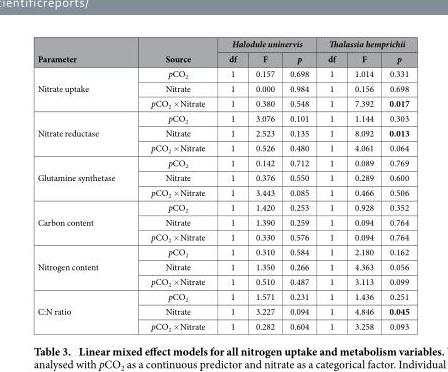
<table><thead><tr><td rowspan="2">Parameter</td><td rowspan="2">Source</td><td colspan="3">Halodule uninervis</td><td colspan="3">Thalassia hemprichii</td></tr><tr><td>df</td><td>F</td><td>p</td><td>df</td><td>F</td><td>p</td></tr></thead><tbody><tr><td rowspan="3">Nitrate uptake</td><td>pCO<sub>2</sub></td><td>1</td><td>0.157</td><td>0.698</td><td>1</td><td>1.014</td><td>0.331</td></tr><tr><td>Nitrate</td><td>1</td><td>0.000</td><td>0.984</td><td>1</td><td>0.156</td><td>0.698</td></tr><tr><td>pCO<sub>2</sub> × Nitrate</td><td>1</td><td>0.380</td><td>0.548</td><td>1</td><td>7.392</td><td>0.017</td></tr><tr><td rowspan="3">Nitrate reductase</td><td>pCO<sub>2</sub></td><td>1</td><td>3.076</td><td>0.101</td><td>1</td><td>1.144</td><td>0.303</td></tr><tr><td>Nitrate</td><td>1</td><td>2.523</td><td>0.135</td><td>1</td><td>8.092</td><td>0.013</td></tr><tr><td>pCO<sub>2</sub> × Nitrate</td><td>1</td><td>0.526</td><td>0.480</td><td>1</td><td>4.061</td><td>0.064</td></tr><tr><td rowspan="3">Glutamine synthetase</td><td>pCO<sub>2</sub></td><td>1</td><td>0.142</td><td>0.712</td><td>1</td><td>0.089</td><td>0.769</td></tr><tr><td>Nitrate</td><td>1</td><td>0.376</td><td>0.550</td><td>1</td><td>0.289</td><td>0.600</td></tr><tr><td>pCO<sub>2</sub> × Nitrate</td><td>1</td><td>3.443</td><td>0.085</td><td>1</td><td>0.466</td><td>0.506</td></tr><tr><td rowspan="3">Carbon content</td><td>pCO<sub>2</sub></td><td>1</td><td>1.420</td><td>0.253</td><td>1</td><td>0.928</td><td>0.352</td></tr><tr><td>Nitrate</td><td>1</td><td>1.390</td><td>0.259</td><td>1</td><td>0.094</td><td>0.764</td></tr><tr><td>pCO<sub>2</sub> × Nitrate</td><td>1</td><td>0.330</td><td>0.576</td><td>1</td><td>0.094</td><td>0.764</td></tr><tr><td rowspan="3">Nitrogen content</td><td>pCO<sub>2</sub></td><td>1</td><td>0.310</td><td>0.584</td><td>1</td><td>2.180</td><td>0.162</td></tr><tr><td>Nitrate</td><td>1</td><td>1.350</td><td>0.266</td><td>1</td><td>4.363</td><td>0.056</td></tr><tr><td>pCO<sub>2</sub> × Nitrate</td><td>1</td><td>0.510</td><td>0.487</td><td>1</td><td>3.113</td><td>0.099</td></tr><tr><td rowspan="3">C:N ratio</td><td>pCO<sub>2</sub></td><td>1</td><td>1.571</td><td>0.231</td><td>1</td><td>1.436</td><td>0.251</td></tr><tr><td>Nitrate</td><td>1</td><td>3.227</td><td>0.094</td><td>1</td><td>4.846</td><td>0.045</td></tr><tr><td>pCO<sub>2</sub> × Nitrate</td><td>1</td><td>0.282</td><td>0.604</td><td>1</td><td>3.258</td><td>0.093</td></tr></tbody></table>